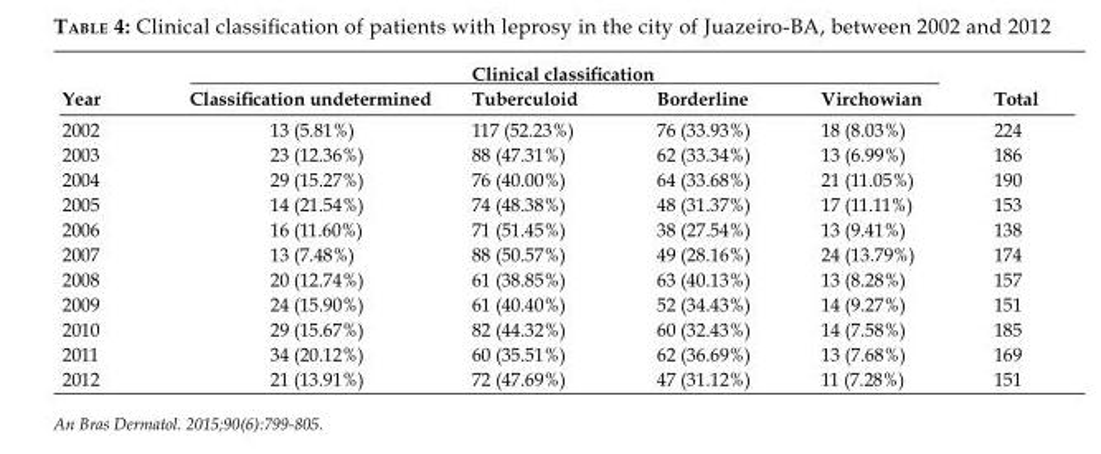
<table><thead><tr><td rowspan="2">Year</td><td colspan="4">Clinical classification</td><td rowspan="2">Total</td></tr><tr><td>Classification undetermined</td><td>Tuberculoid</td><td>Borderline</td><td>Virchowian</td></tr></thead><tbody><tr><td>2002</td><td>13 (5.81%)</td><td>117 (52.23%)</td><td>76 (33.93%)</td><td>18 (8.03%)</td><td>224</td></tr><tr><td>2003</td><td>23 (12.36%)</td><td>88 (47.31%)</td><td>62 (33.34%)</td><td>13 (6.99%)</td><td>186</td></tr><tr><td>2004</td><td>29 (15.27%)</td><td>76 (40.00%)</td><td>64 (33.68%)</td><td>21 (11.05%)</td><td>190</td></tr><tr><td>2005</td><td>14 (21.54%)</td><td>74 (48.38%)</td><td>48 (31.37%)</td><td>17 (11.11%)</td><td>153</td></tr><tr><td>2006</td><td>16 (11.60%)</td><td>71 (51.45%)</td><td>38 (27.54%)</td><td>13 (9.41%)</td><td>138</td></tr><tr><td>2007</td><td>13 (7.48%)</td><td>88 (50.57%)</td><td>49 (28.16%)</td><td>24 (13.79%)</td><td>174</td></tr><tr><td>2008</td><td>20 (12.74%)</td><td>61 (38.85%)</td><td>63 (40.13%)</td><td>13 (8.28%)</td><td>157</td></tr><tr><td>2009</td><td>24 (15.90%)</td><td>61 (40.40%)</td><td>52 (34.43%)</td><td>14 (9.27%)</td><td>151</td></tr><tr><td>2010</td><td>29 (15.67%)</td><td>82 (44.32%)</td><td>60 (32.43%)</td><td>14 (7.58%)</td><td>185</td></tr><tr><td>2011</td><td>34 (20.12%)</td><td>60 (35.51%)</td><td>62 (36.69%)</td><td>13 (7.68%)</td><td>169</td></tr><tr><td>2012</td><td>21 (13.91%)</td><td>72 (47.69%)</td><td>47 (31.12%)</td><td>11 (7.28%)</td><td>151</td></tr></tbody></table>